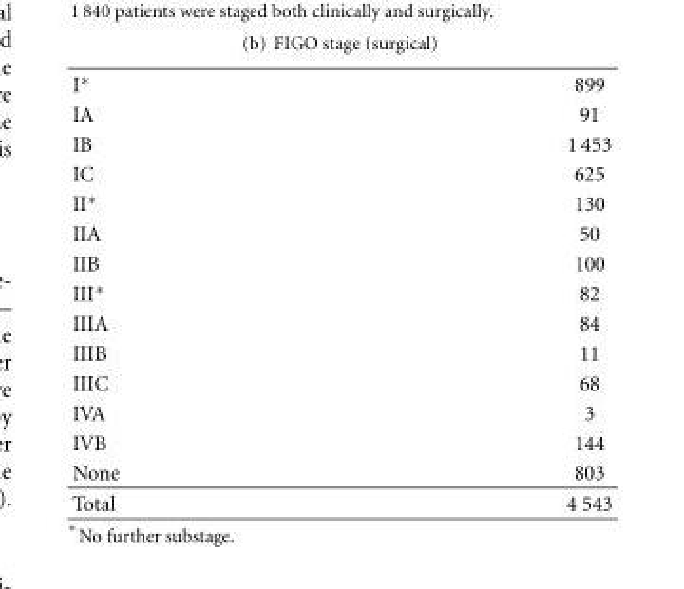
<table><tbody><tr><td>I∗</td><td>899</td></tr><tr><td>IA</td><td>91</td></tr><tr><td>IB</td><td>1 453</td></tr><tr><td>IC</td><td>625</td></tr><tr><td>II∗</td><td>130</td></tr><tr><td>IIA</td><td>50</td></tr><tr><td>IIB</td><td>100</td></tr><tr><td>III∗</td><td>82</td></tr><tr><td>IIIA</td><td>84</td></tr><tr><td>IIIB</td><td>11</td></tr><tr><td>IIIC</td><td>68</td></tr><tr><td>IVA</td><td>3</td></tr><tr><td>IVB</td><td>144</td></tr><tr><td>None</td><td>803</td></tr><tr><td>Total</td><td>4 543</td></tr></tbody></table>